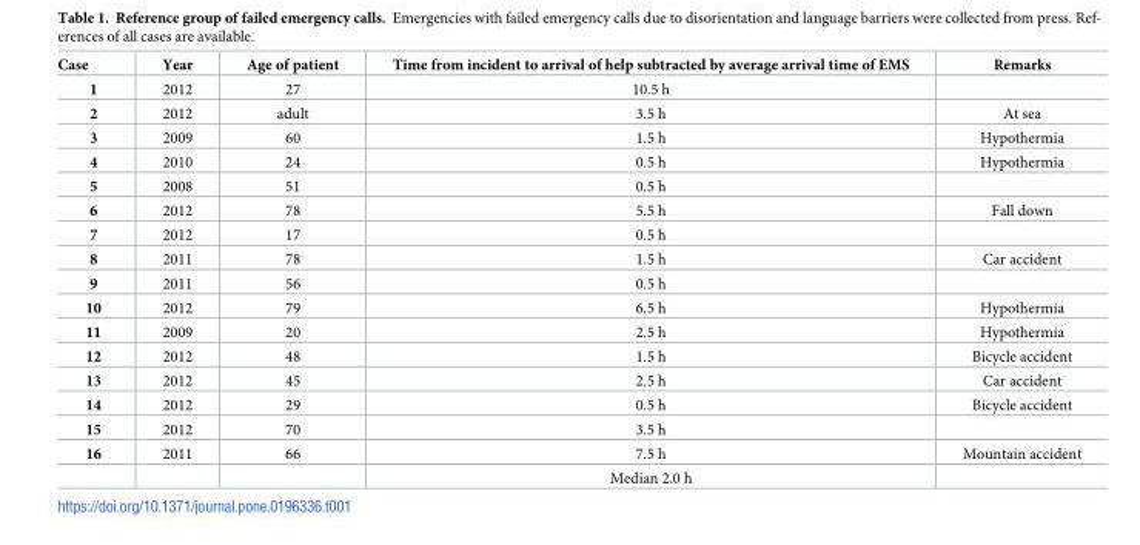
<table><thead><tr><td>Case</td><td>Year</td><td>Age of patient</td><td>Time from incident to arrival of help subtracted by average arrival time of EMS</td><td>Remarks</td></tr></thead><tbody><tr><td>1</td><td>2012</td><td>27</td><td>10.5 h</td><td></td></tr><tr><td>2</td><td>2012</td><td>adult</td><td>3.5 h</td><td>At sea</td></tr><tr><td>3</td><td>2009</td><td>60</td><td>1.5 h</td><td>Hypothermia</td></tr><tr><td>4</td><td>2010</td><td>24</td><td>0.5 h</td><td>Hypothermia</td></tr><tr><td>5</td><td>2008</td><td>51</td><td>0.5 h</td><td></td></tr><tr><td>6</td><td>2012</td><td>78</td><td>5.5 h</td><td>Fall down</td></tr><tr><td>7</td><td>2012</td><td>17</td><td>0.5 h</td><td></td></tr><tr><td>8</td><td>2011</td><td>78</td><td>1.5 h</td><td>Car accident</td></tr><tr><td>9</td><td>2011</td><td>56</td><td>0.5 h</td><td></td></tr><tr><td>10</td><td>2012</td><td>79</td><td>6.5 h</td><td>Hypothermia</td></tr><tr><td>11</td><td>2009</td><td>20</td><td>2.5 h</td><td>Hypothermia</td></tr><tr><td>12</td><td>2012</td><td>48</td><td>1.5 h</td><td>Bicycle accident</td></tr><tr><td>13</td><td>2012</td><td>45</td><td>2.5 h</td><td>Car accident</td></tr><tr><td>14</td><td>2012</td><td>29</td><td>0.5 h</td><td>Bicycle accident</td></tr><tr><td>15</td><td>2012</td><td>70</td><td>3.5 h</td><td></td></tr><tr><td rowspan="2">16</td><td>2011</td><td>66</td><td>7.5 h</td><td>Mountain accident</td></tr><tr><td></td><td></td><td>Median 2.0 h</td><td></td></tr></tbody></table>